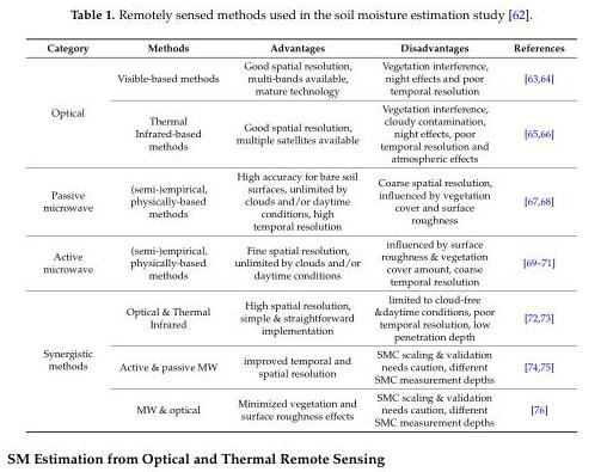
<table><thead><tr><td>Category</td><td>Methods</td><td>Advantages</td><td>Disadvantages</td><td>References</td></tr></thead><tbody><tr><td rowspan="2">Optical</td><td>Visible-based methods</td><td>Good spatial resolution, multi-bands available, mature technology</td><td>Vegetation interference, night effects and poor temporal resolution</td><td>[63,64]</td></tr><tr><td>Thermal Infrared-based methods</td><td>Good spatial resolution, multiple satellites available</td><td>Vegetation interference, cloudy contamination, night effects, poor temporal resolution and atmospheric effects</td><td>[65,66]</td></tr><tr><td>Passive microwave</td><td>(semi-)empirical, physically-based methods</td><td>High accuracy for bare soil surfaces, unlimited by clouds and/or daytime conditions, high temporal resolution</td><td>Coarse spatial resolution, influenced by vegetation cover and surface roughness</td><td>[67,68]</td></tr><tr><td>Active microwave</td><td>(semi-)empirical, physically-based methods</td><td>Fine spatial resolution, unlimited by clouds and/or daytime conditions</td><td>influenced by surface roughness &amp; vegetation cover amount, coarse temporal resolution</td><td>[69–71]</td></tr><tr><td rowspan="3">Synergistic methods</td><td>Optical &amp; Thermal Infrared</td><td>High spatial resolution, simple &amp; straightforward implementation</td><td>limited to cloud-free &amp;daytime conditions, poor temporal resolution, low penetration depth</td><td>[72,73]</td></tr><tr><td>Active &amp; passive MW</td><td>improved temporal and spatial resolution</td><td>SMC scaling &amp; validation needs caution, different SMC measurement depths</td><td>[74,75]</td></tr><tr><td>MW &amp; optical</td><td>Minimized vegetation and surface roughness effects</td><td>SMC scaling &amp; validation needs caution, different SMC measurement depths</td><td>[76]</td></tr></tbody></table>